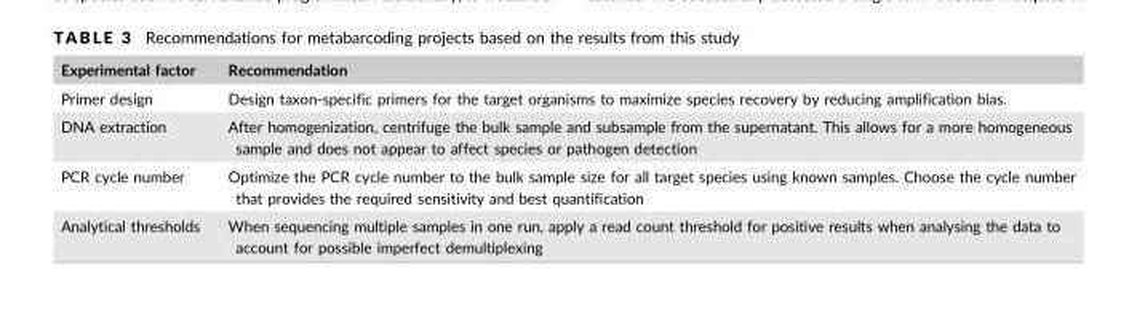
<table><thead><tr><td>Experimental factor</td><td>Recommendation</td></tr></thead><tbody><tr><td>Primer design</td><td>Design taxon-specific primers for the target organisms to maximize species recovery by reducing amplification bias.</td></tr><tr><td>DNA extraction</td><td>After homogenization, centrifuge the bulk sample and subsample from the supernatant. This allows for a more homogeneous sample and does not appear to affect species or pathogen detection</td></tr><tr><td>PCR cycle number</td><td>Optimize the PCR cycle number to the bulk sample size for all target species using known samples. Choose the cycle number that provides the required sensitivity and best quantification</td></tr><tr><td>Analytical thresholds</td><td>When sequencing multiple samples in one run, apply a read count threshold for positive results when analysing the data to account for possible imperfect demultiplexing</td></tr></tbody></table>